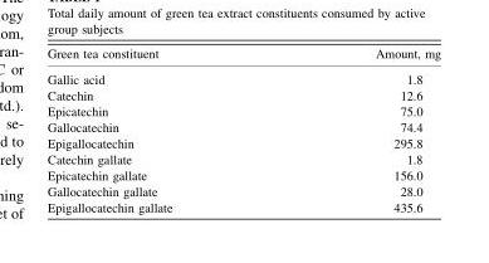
<table><thead><tr><td>Green tea constituent</td><td>Amount, mg</td></tr></thead><tbody><tr><td>Gallic acid</td><td>1.8</td></tr><tr><td>Catechin</td><td>12.6</td></tr><tr><td>Epicatechin</td><td>75.0</td></tr><tr><td>Gallocatechin</td><td>74.4</td></tr><tr><td>Epigallocatechin</td><td>295.8</td></tr><tr><td>Catechin gallate</td><td>1.8</td></tr><tr><td>Epicatechin gallate</td><td>156.0</td></tr><tr><td>Gallocatechin gallate</td><td>28.0</td></tr><tr><td>Epigallocatechin gallate</td><td>435.6</td></tr></tbody></table>